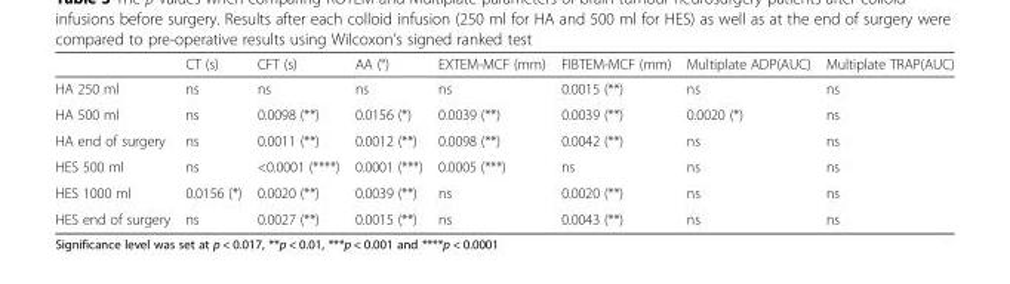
<table><thead><tr><td></td><td>CT (s)</td><td>CFT (s)</td><td>AA (°)</td><td>EXTEM-MCF (mm)</td><td>FIBTEM-MCF (mm)</td><td>Multiplate ADP(AUC)</td><td>Multiplate TRAP(AUC)</td></tr></thead><tbody><tr><td>HA 250 ml</td><td>ns</td><td>ns</td><td>ns</td><td>ns</td><td>0.0015 (**)</td><td>ns</td><td>ns</td></tr><tr><td>HA 500 ml</td><td>ns</td><td>0.0098 (**)</td><td>0.0156 (*)</td><td>0.0039 (**)</td><td>0.0039 (**)</td><td>0.0020 (*)</td><td>ns</td></tr><tr><td>HA end of surgery</td><td>ns</td><td>0.0011 (**)</td><td>0.0012 (**)</td><td>0.0098 (**)</td><td>0.0042 (**)</td><td>ns</td><td>ns</td></tr><tr><td>HES 500 ml</td><td>ns</td><td>&lt;0.0001 (****)</td><td>0.0001 (***)</td><td>0.0005 (***)</td><td>ns</td><td>ns</td><td>ns</td></tr><tr><td>HES 1000 ml</td><td>0.0156 (*)</td><td>0.0020 (**)</td><td>0.0039 (**)</td><td>ns</td><td>0.0020 (**)</td><td>ns</td><td>ns</td></tr><tr><td>HES end of surgery</td><td>ns</td><td>0.0027 (**)</td><td>0.0015 (**)</td><td>ns</td><td>0.0043 (**)</td><td>ns</td><td>ns</td></tr></tbody></table>